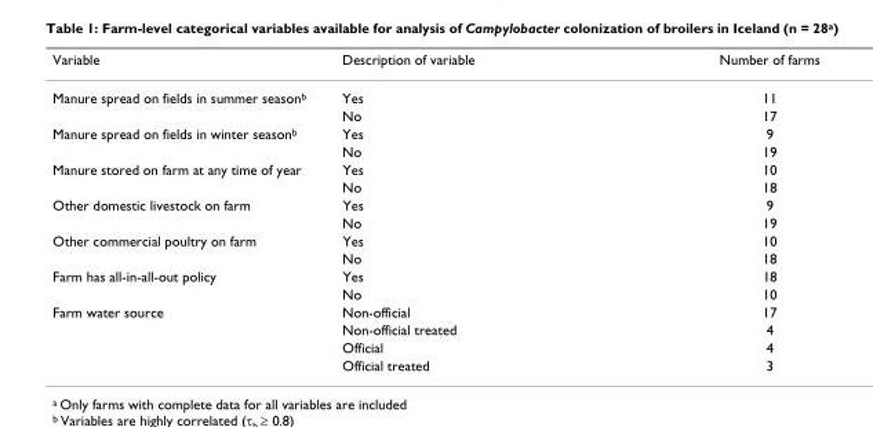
<table><thead><tr><td>Variable</td><td>Description of variable</td><td>Number of farms</td></tr></thead><tbody><tr><td rowspan="2">Manure spread on fields in summer season<sup>b</sup></td><td>Yes</td><td>11</td></tr><tr><td>No</td><td>17</td></tr><tr><td rowspan="2">Manure spread on fields in winter season<sup>b</sup></td><td>Yes</td><td>9</td></tr><tr><td>No</td><td>19</td></tr><tr><td rowspan="2">Manure stored on farm at any time of year</td><td>Yes</td><td>10</td></tr><tr><td>No</td><td>18</td></tr><tr><td rowspan="2">Other domestic livestock on farm</td><td>Yes</td><td>9</td></tr><tr><td>No</td><td>19</td></tr><tr><td rowspan="2">Other commercial poultry on farm</td><td>Yes</td><td>10</td></tr><tr><td>No</td><td>18</td></tr><tr><td rowspan="2">Farm has all-in-all-out policy</td><td>Yes</td><td>18</td></tr><tr><td>No</td><td>10</td></tr><tr><td rowspan="4">Farm water source</td><td>Non-official</td><td>17</td></tr><tr><td>Non-official treated</td><td>4</td></tr><tr><td>Official</td><td>4</td></tr><tr><td>Official treated</td><td>3</td></tr></tbody></table>